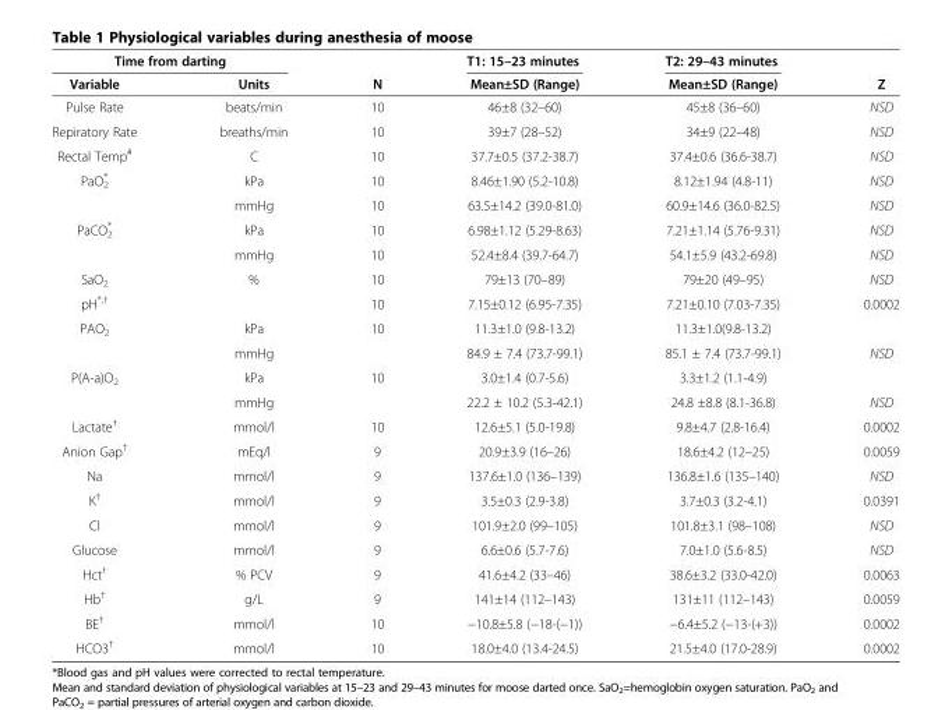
<table><thead><tr><td colspan="2">Time from darting</td><td rowspan="2">N</td><td rowspan="2">T1: 15–23 minutes Mean±SD (Range)</td><td rowspan="2">T2: 29–43 minutes Mean±SD (Range)</td><td rowspan="2">Z</td></tr><tr><td>Variable</td><td>Units</td></tr></thead><tbody><tr><td>Pulse Rate</td><td>beats/min</td><td>10</td><td>46±8 (32–60)</td><td>45±8 (36–60)</td><td>NSD</td></tr><tr><td>Repiratory Rate</td><td>breaths/min</td><td>10</td><td>39±7 (28–52)</td><td>34±9 (22–48)</td><td>NSD</td></tr><tr><td>Rectal Temp<sup>#</sup></td><td>C</td><td>10</td><td>37.7±0.5 (37.2-38.7)</td><td>37.4±0.6 (36.6-38.7)</td><td>NSD</td></tr><tr><td rowspan="2">PaO<sub>2</sub> *</td><td>kPa</td><td>10</td><td>8.46±1.90 (5.2-10.8)</td><td>8.12±1.94 (4.8-11)</td><td>NSD</td></tr><tr><td>mmHg</td><td>10</td><td>63.5±14.2 (39.0-81.0)</td><td>60.9±14.6 (36.0-82.5)</td><td>NSD</td></tr><tr><td rowspan="2">PaCO<sub>2</sub> *</td><td>kPa</td><td>10</td><td>6.98±1.12 (5.29-8.63)</td><td>7.21±1.14 (5.76-9.31)</td><td>NSD</td></tr><tr><td>mmHg</td><td>10</td><td>52.4±8.4 (39.7-64.7)</td><td>54.1±5.9 (43.2-69.8)</td><td>NSD</td></tr><tr><td>SaO<sub>2</sub></td><td>%</td><td>10</td><td>79±13 (70–89)</td><td>79±20 (49–95)</td><td>NSD</td></tr><tr><td>pH<sup>*,†</sup></td><td></td><td>10</td><td>7.15±0.12 (6.95-7.35)</td><td>7.21±0.10 (7.03-7.35)</td><td>0.0002</td></tr><tr><td rowspan="2">PAO<sub>2</sub></td><td>kPa</td><td>10</td><td>11.3±1.0 (9.8-13.2)</td><td>11.3±1.0(9.8-13.2)</td><td></td></tr><tr><td>mmHg</td><td></td><td>84.9 ± 7.4 (73.7-99.1)</td><td>85.1 ± 7.4 (73.7-99.1)</td><td>NSD</td></tr><tr><td rowspan="2">P(A-a)O<sub>2</sub></td><td>kPa</td><td>10</td><td>3.0±1.4 (0.7-5.6)</td><td>3.3±1.2 (1.1-4.9)</td><td></td></tr><tr><td>mmHg</td><td></td><td>22.2 ± 10.2 (5.3-42.1)</td><td>24.8 ±8.8 (8.1-36.8)</td><td>NSD</td></tr><tr><td>Lactate<sup>†</sup></td><td>mmol/l</td><td>10</td><td>12.6±5.1 (5.0-19.8)</td><td>9.8±4.7 (2.8-16.4)</td><td>0.0002</td></tr><tr><td>Anion Gap<sup>†</sup></td><td>mEq/l</td><td>9</td><td>20.9±3.9 (16–26)</td><td>18.6±4.2 (12–25)</td><td>0.0059</td></tr><tr><td>Na</td><td>mmol/l</td><td>9</td><td>137.6±1.0 (136–139)</td><td>136.8±1.6 (135–140)</td><td>NSD</td></tr><tr><td>K<sup>†</sup></td><td>mmol/l</td><td>9</td><td>3.5±0.3 (2.9-3.8)</td><td>3.7±0.3 (3.2-4.1)</td><td>0.0391</td></tr><tr><td>Cl</td><td>mmol/l</td><td>9</td><td>101.9±2.0 (99–105)</td><td>101.8±3.1 (98–108)</td><td>NSD</td></tr><tr><td>Glucose</td><td>mmol/l</td><td>9</td><td>6.6±0.6 (5.7-7.6)</td><td>7.0±1.0 (5.6-8.5)</td><td>NSD</td></tr><tr><td>Hct<sup>†</sup></td><td>% PCV</td><td>9</td><td>41.6±4.2 (33–46)</td><td>38.6±3.2 (33.0-42.0)</td><td>0.0063</td></tr><tr><td>Hb<sup>†</sup></td><td>g/L</td><td>9</td><td>141±14 (112–143)</td><td>131±11 (112–143)</td><td>0.0059</td></tr><tr><td>BE<sup>†</sup></td><td>mmol/l</td><td>10</td><td>−10.8±5.8 (−18-(−1))</td><td>−6.4±5.2 (−13-(+3))</td><td>0.0002</td></tr><tr><td>HCO3<sup>†</sup></td><td>mmol/l</td><td>10</td><td>18.0±4.0 (13.4-24.5)</td><td>21.5±4.0 (17.0-28.9)</td><td>0.0002</td></tr></tbody></table>